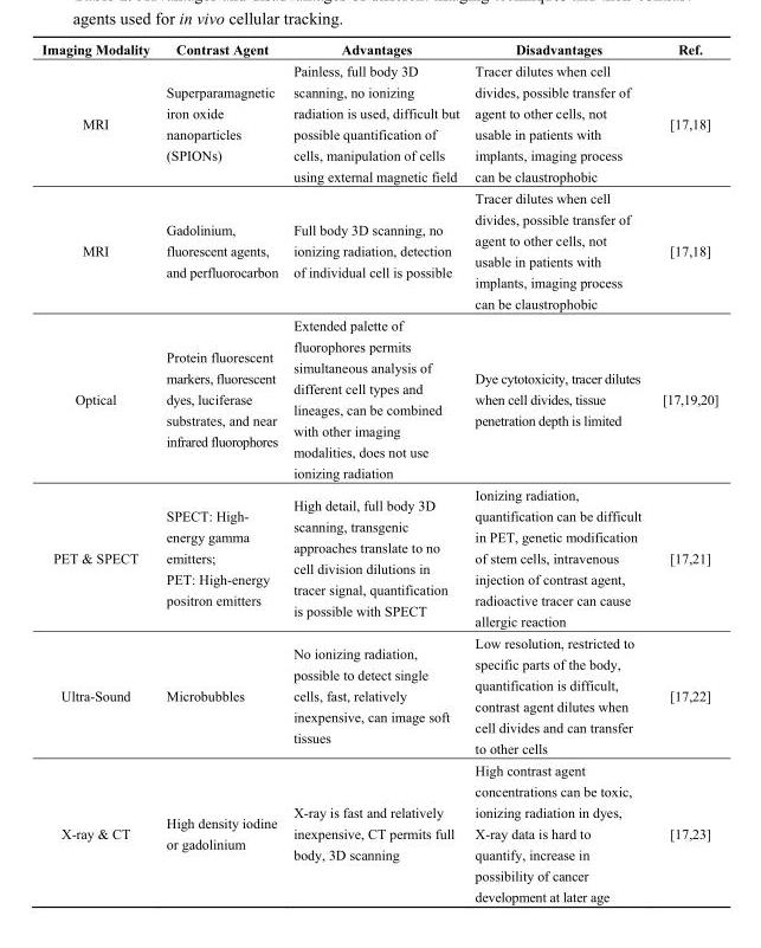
<table><thead><tr><td>Imaging Modality</td><td>Contrast Agent</td><td>Advantages</td><td>Disadvantages</td><td>Ref.</td></tr></thead><tbody><tr><td>MRI</td><td>Superparamagnetic iron oxide nanoparticles (SPIONs)</td><td>Painless, full body 3D scanning, no ionizing radiation is used, difficult but possible quantification of cells, manipulation of cells using external magnetic field</td><td>Tracer dilutes when cell divides, possible transfer of agent to other cells, not usable in patients with implants, imaging process can be claustrophobic</td><td>[17,18]</td></tr><tr><td>MRI</td><td>Gadolinium, fluorescent agents, and perfluorocarbon</td><td>Full body 3D scanning, no ionizing radiation, detection of individual cell is possible</td><td>Tracer dilutes when cell divides, possible transfer of agent to other cells, not usable in patients with implants, imaging process can be claustrophobic</td><td>[17,18]</td></tr><tr><td>Optical</td><td>Protein fluorescent markers, fluorescent dyes, luciferase substrates, and near infrared fluorophores</td><td>Extended palette of fluorophores permits simultaneous analysis of different cell types and lineages, can be combined with other imaging modalities, does not use ionizing radiation</td><td>Dye cytotoxicity, tracer dilutes when cell divides, tissue penetration depth is limited</td><td>[17,19,20]</td></tr><tr><td>PET &amp; SPECT</td><td>SPECT: High- energy gamma emitters; PET: High-energy positron emitters</td><td>High detail, full body 3D scanning, transgenic approaches translate to no cell division dilutions in tracer signal, quantification is possible with SPECT</td><td>Ionizing radiation, quantification can be difficult in PET, genetic modification of stem cells, intravenous injection of contrast agent, radioactive tracer can cause allergic reaction</td><td>[17,21]</td></tr><tr><td>Ultra-Sound</td><td>Microbubbles</td><td>No ionizing radiation, possible to detect single cells, fast, relatively inexpensive, can image soft tissues</td><td>Low resolution, restricted to specific parts of the body, quantification is difficult, contrast agent dilutes when cell divides and can transfer to other cells</td><td>[17,22]</td></tr><tr><td>X-ray &amp; CT</td><td>High density iodine or gadolinium</td><td>X-ray is fast and relatively inexpensive, CT permits full body, 3D scanning</td><td>High contrast agent concentrations can be toxic, ionizing radiation in dyes, X-ray data is hard to quantify, increase in possibility of cancer development at later age</td><td>[17,23]</td></tr></tbody></table>